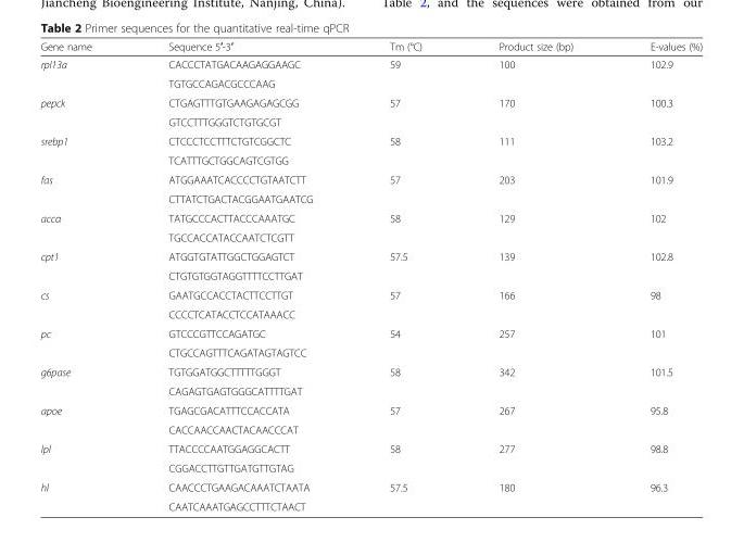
<table><thead><tr><td>Gene name</td><td>Sequence 5′-3′</td><td>Tm (°C)</td><td>Product size (bp)</td><td>E-values (%)</td></tr></thead><tbody><tr><td rowspan="2">rpl13a</td><td>CACCCTATGACAAGAGGAAGC</td><td rowspan="2">59</td><td rowspan="2">100</td><td rowspan="2">102.9</td></tr><tr><td>TGTGCCAGACGCCCAAG</td></tr><tr><td rowspan="2">pepck</td><td>CTGAGTTTGTGAAGAGAGCGG</td><td rowspan="2">57</td><td rowspan="2">170</td><td rowspan="2">100.3</td></tr><tr><td>GTCCTTTGGGTCTGTGCGT</td></tr><tr><td rowspan="2">srebp1</td><td>CTCCCTCCTTTCTGTCGGCTC</td><td rowspan="2">58</td><td rowspan="2">111</td><td rowspan="2">103.2</td></tr><tr><td>TCATTTGCTGGCAGTCGTGG</td></tr><tr><td rowspan="2">fas</td><td>ATGGAAATCACCCCTGTAATCTT</td><td rowspan="2">57</td><td rowspan="2">203</td><td rowspan="2">101.9</td></tr><tr><td>CTTATCTGACTACGGAATGAATCG</td></tr><tr><td rowspan="2">accα</td><td>TATGCCCACTTACCCAAATGC</td><td rowspan="2">58</td><td rowspan="2">129</td><td rowspan="2">102</td></tr><tr><td>TGCCACCATACCAATCTCGTT</td></tr><tr><td rowspan="2">cpt1</td><td>ATGGTGTATTGGCTGGAGTCT</td><td rowspan="2">57.5</td><td rowspan="2">139</td><td rowspan="2">102.8</td></tr><tr><td>CTGTGTGGTAGGTTTTCCTTGAT</td></tr><tr><td rowspan="2">cs</td><td>GAATGCCACCTACTTCCTTGT</td><td rowspan="2">57</td><td rowspan="2">166</td><td rowspan="2">98</td></tr><tr><td>CCCCTCATACCTCCATAAACC</td></tr><tr><td rowspan="2">pc</td><td>GTCCCGTTCCAGATGC</td><td rowspan="2">54</td><td rowspan="2">257</td><td rowspan="2">101</td></tr><tr><td>CTGCCAGTTTCAGATAGTAGTCC</td></tr><tr><td rowspan="2">g6pase</td><td>TGTGGATGGCTTTTTGGGT</td><td rowspan="2">58</td><td rowspan="2">342</td><td rowspan="2">101.5</td></tr><tr><td>CAGAGTGAGTGGGCATTTTGAT</td></tr><tr><td rowspan="2">apoe</td><td>TGAGCGACATTTCCACCATA</td><td rowspan="2">57</td><td rowspan="2">267</td><td rowspan="2">95.8</td></tr><tr><td>CACCAACCAACTACAACCCAT</td></tr><tr><td rowspan="2">lpl</td><td>TTACCCCAATGGAGGCACTT</td><td rowspan="2">58</td><td rowspan="2">277</td><td rowspan="2">98.8</td></tr><tr><td>CGGACCTTGTTGATGTTGTAG</td></tr><tr><td rowspan="2">hl</td><td>CAACCCTGAAGACAAATCTAATA</td><td rowspan="2">57.5</td><td rowspan="2">180</td><td rowspan="2">96.3</td></tr><tr><td>CAATCAAATGAGCCTTTCTAACT</td></tr></tbody></table>